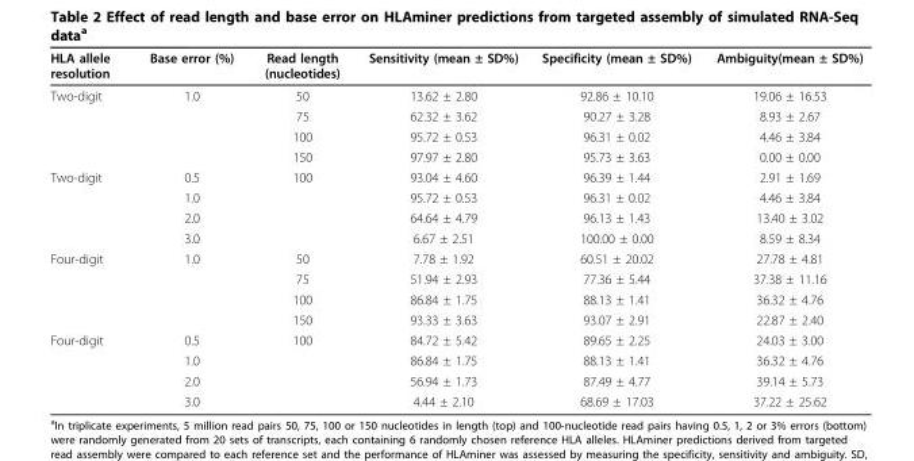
<table><thead><tr><td>HLA allele resolution</td><td>Base error (%)</td><td>Read length (nucleotides)</td><td>Sensitivity (mean ± SD%)</td><td>Specificity (mean ± SD%)</td><td>Ambiguity(mean ± SD%)</td></tr></thead><tbody><tr><td rowspan="4">Two-digit</td><td>1.0</td><td>50</td><td>13.62 ± 2.80</td><td>92.86 ± 10.10</td><td>19.06 ± 16.53</td></tr><tr><td></td><td>75</td><td>62.32 ± 3.62</td><td>90.27 ± 3.28</td><td>8.93 ± 2.67</td></tr><tr><td></td><td>100</td><td>95.72 ± 0.53</td><td>96.31 ± 0.02</td><td>4.46 ± 3.84</td></tr><tr><td></td><td>150</td><td>97.97 ± 2.80</td><td>95.73 ± 3.63</td><td>0.00 ± 0.00</td></tr><tr><td rowspan="4">Two-digit</td><td>0.5</td><td>100</td><td>93.04 ± 4.60</td><td>96.39 ± 1.44</td><td>2.91 ± 1.69</td></tr><tr><td>1.0</td><td></td><td>95.72 ± 0.53</td><td>96.31 ± 0.02</td><td>4.46 ± 3.84</td></tr><tr><td>2.0</td><td></td><td>64.64 ± 4.79</td><td>96.13 ± 1.43</td><td>13.40 ± 3.02</td></tr><tr><td>3.0</td><td></td><td>6.67 ± 2.51</td><td>100.00 ± 0.00</td><td>8.59 ± 8.34</td></tr><tr><td rowspan="4">Four-digit</td><td>1.0</td><td>50</td><td>7.78 ± 1.92</td><td>60.51 ± 20.02</td><td>27.78 ± 4.81</td></tr><tr><td></td><td>75</td><td>51.94 ± 2.93</td><td>77.36 ± 5.44</td><td>37.38 ± 11.16</td></tr><tr><td></td><td>100</td><td>86.84 ± 1.75</td><td>88.13 ± 1.41</td><td>36.32 ± 4.76</td></tr><tr><td></td><td>150</td><td>93.33 ± 3.63</td><td>93.07 ± 2.91</td><td>22.87 ± 2.40</td></tr><tr><td rowspan="4">Four-digit</td><td>0.5</td><td>100</td><td>84.72 ± 5.42</td><td>89.65 ± 2.25</td><td>24.03 ± 3.00</td></tr><tr><td>1.0</td><td></td><td>86.84 ± 1.75</td><td>88.13 ± 1.41</td><td>36.32 ± 4.76</td></tr><tr><td>2.0</td><td></td><td>56.94 ± 1.73</td><td>87.49 ± 4.77</td><td>39.14 ± 5.73</td></tr><tr><td>3.0</td><td></td><td>4.44 ± 2.10</td><td>68.69 ± 17.03</td><td>37.22 ± 25.62</td></tr></tbody></table>